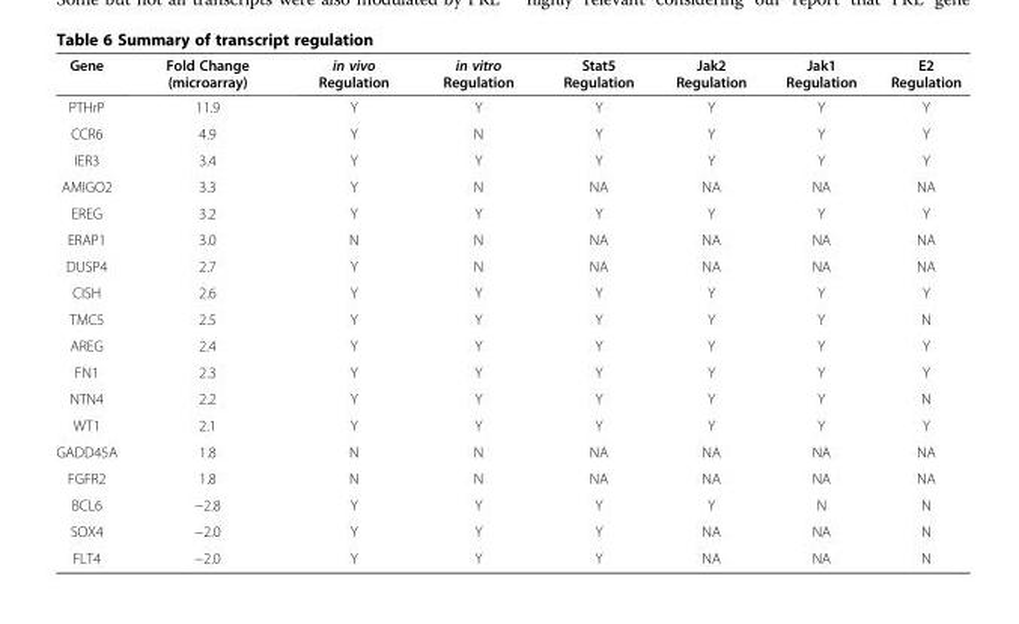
<table><thead><tr><td>Gene</td><td>Fold Change (microarray)</td><td>in vivo Regulation</td><td>in vitro Regulation</td><td>Stat5 Regulation</td><td>Jak2 Regulation</td><td>Jak1 Regulation</td><td>E2 Regulation</td></tr></thead><tbody><tr><td>PTHrP</td><td>11.9</td><td>Y</td><td>Y</td><td>Y</td><td>Y</td><td>Y</td><td>Y</td></tr><tr><td>CCR6</td><td>4.9</td><td>Y</td><td>N</td><td>Y</td><td>Y</td><td>Y</td><td>Y</td></tr><tr><td>IER3</td><td>3.4</td><td>Y</td><td>Y</td><td>Y</td><td>Y</td><td>Y</td><td>Y</td></tr><tr><td>AMIGO2</td><td>3.3</td><td>Y</td><td>N</td><td>NA</td><td>NA</td><td>NA</td><td>NA</td></tr><tr><td>EREG</td><td>3.2</td><td>Y</td><td>Y</td><td>Y</td><td>Y</td><td>Y</td><td>Y</td></tr><tr><td>ERAP1</td><td>3.0</td><td>N</td><td>N</td><td>NA</td><td>NA</td><td>NA</td><td>NA</td></tr><tr><td>DUSP4</td><td>2.7</td><td>Y</td><td>N</td><td>NA</td><td>NA</td><td>NA</td><td>NA</td></tr><tr><td>CISH</td><td>2.6</td><td>Y</td><td>Y</td><td>Y</td><td>Y</td><td>Y</td><td>Y</td></tr><tr><td>TMC5</td><td>2.5</td><td>Y</td><td>Y</td><td>Y</td><td>Y</td><td>Y</td><td>N</td></tr><tr><td>AREG</td><td>2.4</td><td>Y</td><td>Y</td><td>Y</td><td>Y</td><td>Y</td><td>Y</td></tr><tr><td>FN1</td><td>2.3</td><td>Y</td><td>Y</td><td>Y</td><td>Y</td><td>Y</td><td>Y</td></tr><tr><td>NTN4</td><td>2.2</td><td>Y</td><td>Y</td><td>Y</td><td>Y</td><td>Y</td><td>N</td></tr><tr><td>WT1</td><td>2.1</td><td>Y</td><td>Y</td><td>Y</td><td>Y</td><td>Y</td><td>Y</td></tr><tr><td>GADD45A</td><td>1.8</td><td>N</td><td>N</td><td>NA</td><td>NA</td><td>NA</td><td>NA</td></tr><tr><td>FGFR2</td><td>1.8</td><td>N</td><td>N</td><td>NA</td><td>NA</td><td>NA</td><td>NA</td></tr><tr><td>BCL6</td><td>−2.8</td><td>Y</td><td>Y</td><td>Y</td><td>Y</td><td>N</td><td>N</td></tr><tr><td>SOX4</td><td>−2.0</td><td>Y</td><td>Y</td><td>Y</td><td>NA</td><td>NA</td><td>N</td></tr><tr><td>FLT4</td><td>−2.0</td><td>Y</td><td>Y</td><td>Y</td><td>NA</td><td>NA</td><td>N</td></tr></tbody></table>